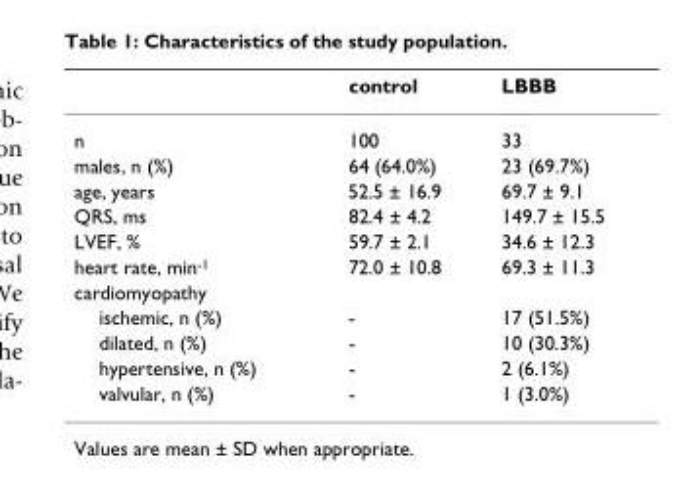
<table><thead><tr><td></td><td>control</td><td>LBBB</td></tr></thead><tbody><tr><td>n</td><td>100</td><td>33</td></tr><tr><td>males, n (%)</td><td>64 (64.0%)</td><td>23 (69.7%)</td></tr><tr><td>age, years</td><td>52.5 ± 16.9</td><td>69.7 ± 9.1</td></tr><tr><td>QRS, ms</td><td>82.4 ± 4.2</td><td>149.7 ± 15.5</td></tr><tr><td>LVEF, %</td><td>59.7 ± 2.1</td><td>34.6 ± 12.3</td></tr><tr><td>heart rate, min<sup>-1</sup></td><td>72.0 ± 10.8</td><td>69.3 ± 11.3</td></tr><tr><td colspan="3">cardiomyopathy</td></tr><tr><td>ischemic, n (%)</td><td>-</td><td>17 (51.5%)</td></tr><tr><td>dilated, n (%)</td><td>-</td><td>10 (30.3%)</td></tr><tr><td>hypertensive, n (%)</td><td>-</td><td>2 (6.1%)</td></tr><tr><td>valvular, n (%)</td><td>-</td><td>1 (3.0%)</td></tr></tbody></table>